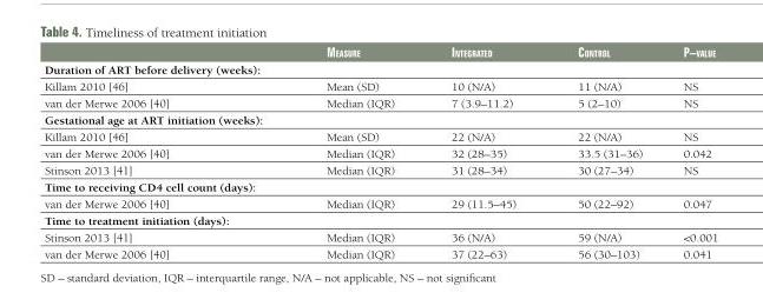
<table><thead><tr><td></td><td>meaSure</td><td>integrated</td><td>control</td><td>p–value</td></tr></thead><tbody><tr><td colspan="5">Duration of ART before delivery (weeks):</td></tr><tr><td>Killam 2010 [46]</td><td>Mean (SD)</td><td>10 (N/A)</td><td>11 (N/A)</td><td>NS</td></tr><tr><td>van der Merwe 2006 [40]</td><td>Median (IQR)</td><td>7 (3.9–11.2)</td><td>5 (2–10)</td><td>NS</td></tr><tr><td colspan="5">Gestational age at ART initiation (weeks):</td></tr><tr><td>Killam 2010 [46]</td><td>Mean (SD)</td><td>22 (N/A)</td><td>22 (N/A)</td><td>NS</td></tr><tr><td>van der Merwe 2006 [40]</td><td>Median (IQR)</td><td>32 (28–35)</td><td>33.5 (31–36)</td><td>0.042</td></tr><tr><td>Stinson 2013 [41]</td><td>Median (IQR)</td><td>31 (28–34)</td><td>30 (27–34)</td><td>NS</td></tr><tr><td colspan="5">Time to receiving CD4 cell count (days):</td></tr><tr><td>van der Merwe 2006 [40]</td><td>Median (IQR)</td><td>29 (11.5–45)</td><td>50 (22–92)</td><td>0.047</td></tr><tr><td colspan="5">Time to treatment initiation (days):</td></tr><tr><td>Stinson 2013 [41]</td><td>Median (IQR)</td><td>36 (N/A)</td><td>59 (N/A)</td><td>&lt;0.001</td></tr><tr><td>van der Merwe 2006 [40]</td><td>Median (IQR)</td><td>37 (22–63)</td><td>56 (30–103)</td><td>0.041</td></tr></tbody></table>